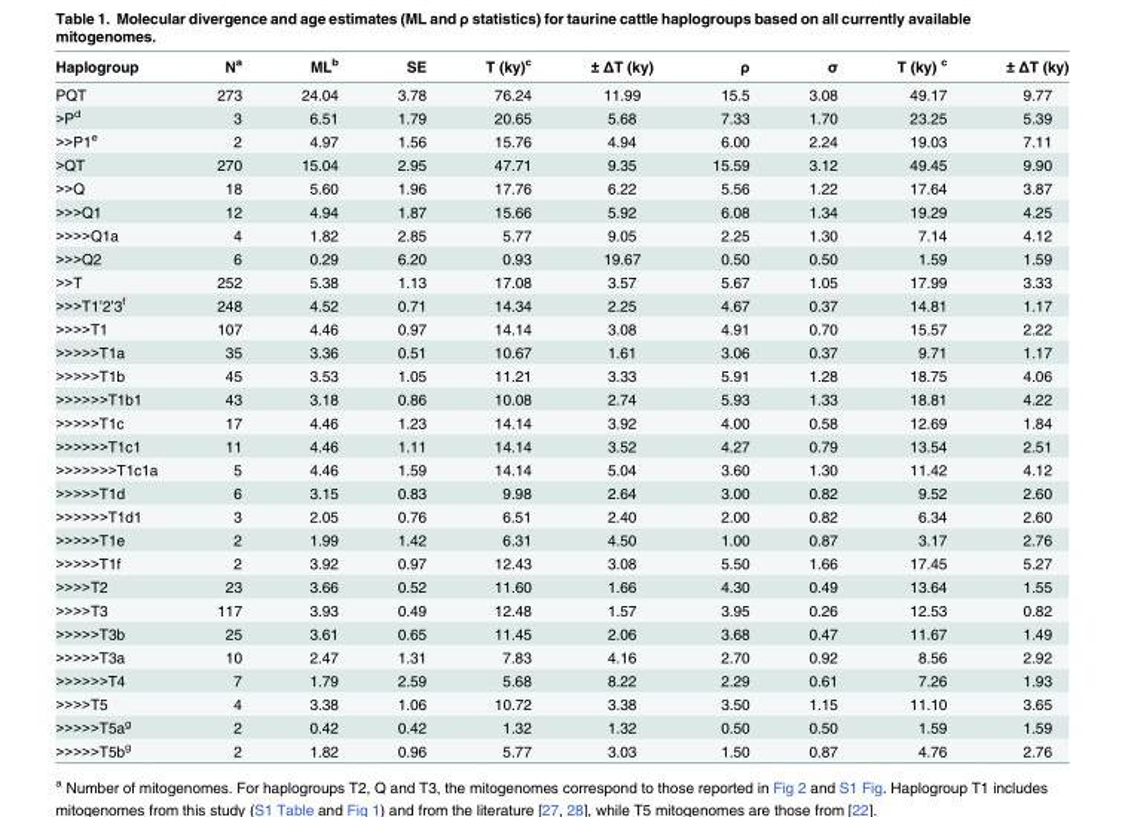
<table><thead><tr><td>Haplogroup</td><td>N<sup>a</sup></td><td>ML<sup>b</sup></td><td>SE</td><td>T (ky)<sup>c</sup></td><td>± ΔT (ky)</td><td>ρ</td><td>σ</td><td>T (ky) <sup>c</sup></td><td>± ΔT (ky)</td></tr></thead><tbody><tr><td>PQT</td><td>273</td><td>24.04</td><td>3.78</td><td>76.24</td><td>11.99</td><td>15.5</td><td>3.08</td><td>49.17</td><td>9.77</td></tr><tr><td>&gt;P<sup>d</sup></td><td>3</td><td>6.51</td><td>1.79</td><td>20.65</td><td>5.68</td><td>7.33</td><td>1.70</td><td>23.25</td><td>5.39</td></tr><tr><td>&gt;&gt;P1<sup>e</sup></td><td>2</td><td>4.97</td><td>1.56</td><td>15.76</td><td>4.94</td><td>6.00</td><td>2.24</td><td>19.03</td><td>7.11</td></tr><tr><td>&gt;QT</td><td>270</td><td>15.04</td><td>2.95</td><td>47.71</td><td>9.35</td><td>15.59</td><td>3.12</td><td>49.45</td><td>9.90</td></tr><tr><td>&gt;&gt;Q</td><td>18</td><td>5.60</td><td>1.96</td><td>17.76</td><td>6.22</td><td>5.56</td><td>1.22</td><td>17.64</td><td>3.87</td></tr><tr><td>&gt;&gt;&gt;Q1</td><td>12</td><td>4.94</td><td>1.87</td><td>15.66</td><td>5.92</td><td>6.08</td><td>1.34</td><td>19.29</td><td>4.25</td></tr><tr><td>&gt;&gt;&gt;&gt;Q1a</td><td>4</td><td>1.82</td><td>2.85</td><td>5.77</td><td>9.05</td><td>2.25</td><td>1.30</td><td>7.14</td><td>4.12</td></tr><tr><td>&gt;&gt;&gt;Q2</td><td>6</td><td>0.29</td><td>6.20</td><td>0.93</td><td>19.67</td><td>0.50</td><td>0.50</td><td>1.59</td><td>1.59</td></tr><tr><td>&gt;&gt;T</td><td>252</td><td>5.38</td><td>1.13</td><td>17.08</td><td>3.57</td><td>5.67</td><td>1.05</td><td>17.99</td><td>3.33</td></tr><tr><td>&gt;&gt;&gt;T1’2’3<sup>f</sup></td><td>248</td><td>4.52</td><td>0.71</td><td>14.34</td><td>2.25</td><td>4.67</td><td>0.37</td><td>14.81</td><td>1.17</td></tr><tr><td>&gt;&gt;&gt;&gt;T1</td><td>107</td><td>4.46</td><td>0.97</td><td>14.14</td><td>3.08</td><td>4.91</td><td>0.70</td><td>15.57</td><td>2.22</td></tr><tr><td>&gt;&gt;&gt;&gt;&gt;T1a</td><td>35</td><td>3.36</td><td>0.51</td><td>10.67</td><td>1.61</td><td>3.06</td><td>0.37</td><td>9.71</td><td>1.17</td></tr><tr><td>&gt;&gt;&gt;&gt;&gt;T1b</td><td>45</td><td>3.53</td><td>1.05</td><td>11.21</td><td>3.33</td><td>5.91</td><td>1.28</td><td>18.75</td><td>4.06</td></tr><tr><td>&gt;&gt;&gt;&gt;&gt;&gt;T1b1</td><td>43</td><td>3.18</td><td>0.86</td><td>10.08</td><td>2.74</td><td>5.93</td><td>1.33</td><td>18.81</td><td>4.22</td></tr><tr><td>&gt;&gt;&gt;&gt;&gt;T1c</td><td>17</td><td>4.46</td><td>1.23</td><td>14.14</td><td>3.92</td><td>4.00</td><td>0.58</td><td>12.69</td><td>1.84</td></tr><tr><td>&gt;&gt;&gt;&gt;&gt;&gt;T1c1</td><td>11</td><td>4.46</td><td>1.11</td><td>14.14</td><td>3.52</td><td>4.27</td><td>0.79</td><td>13.54</td><td>2.51</td></tr><tr><td>&gt;&gt;&gt;&gt;&gt;&gt;&gt;T1c1a</td><td>5</td><td>4.46</td><td>1.59</td><td>14.14</td><td>5.04</td><td>3.60</td><td>1.30</td><td>11.42</td><td>4.12</td></tr><tr><td>&gt;&gt;&gt;&gt;&gt;T1d</td><td>6</td><td>3.15</td><td>0.83</td><td>9.98</td><td>2.64</td><td>3.00</td><td>0.82</td><td>9.52</td><td>2.60</td></tr><tr><td>&gt;&gt;&gt;&gt;&gt;&gt;T1d1</td><td>3</td><td>2.05</td><td>0.76</td><td>6.51</td><td>2.40</td><td>2.00</td><td>0.82</td><td>6.34</td><td>2.60</td></tr><tr><td>&gt;&gt;&gt;&gt;&gt;T1e</td><td>2</td><td>1.99</td><td>1.42</td><td>6.31</td><td>4.50</td><td>1.00</td><td>0.87</td><td>3.17</td><td>2.76</td></tr><tr><td>&gt;&gt;&gt;&gt;&gt;T1f</td><td>2</td><td>3.92</td><td>0.97</td><td>12.43</td><td>3.08</td><td>5.50</td><td>1.66</td><td>17.45</td><td>5.27</td></tr><tr><td>&gt;&gt;&gt;&gt;T2</td><td>23</td><td>3.66</td><td>0.52</td><td>11.60</td><td>1.66</td><td>4.30</td><td>0.49</td><td>13.64</td><td>1.55</td></tr><tr><td>&gt;&gt;&gt;&gt;T3</td><td>117</td><td>3.93</td><td>0.49</td><td>12.48</td><td>1.57</td><td>3.95</td><td>0.26</td><td>12.53</td><td>0.82</td></tr><tr><td>&gt;&gt;&gt;&gt;&gt;T3b</td><td>25</td><td>3.61</td><td>0.65</td><td>11.45</td><td>2.06</td><td>3.68</td><td>0.47</td><td>11.67</td><td>1.49</td></tr><tr><td>&gt;&gt;&gt;&gt;&gt;T3a</td><td>10</td><td>2.47</td><td>1.31</td><td>7.83</td><td>4.16</td><td>2.70</td><td>0.92</td><td>8.56</td><td>2.92</td></tr><tr><td>&gt;&gt;&gt;&gt;&gt;&gt;T4</td><td>7</td><td>1.79</td><td>2.59</td><td>5.68</td><td>8.22</td><td>2.29</td><td>0.61</td><td>7.26</td><td>1.93</td></tr><tr><td>&gt;&gt;&gt;&gt;T5</td><td>4</td><td>3.38</td><td>1.06</td><td>10.72</td><td>3.38</td><td>3.50</td><td>1.15</td><td>11.10</td><td>3.65</td></tr><tr><td>&gt;&gt;&gt;&gt;&gt;T5a<sup>g</sup></td><td>2</td><td>0.42</td><td>0.42</td><td>1.32</td><td>1.32</td><td>0.50</td><td>0.50</td><td>1.59</td><td>1.59</td></tr><tr><td>&gt;&gt;&gt;&gt;&gt;T5b<sup>g</sup></td><td>2</td><td>1.82</td><td>0.96</td><td>5.77</td><td>3.03</td><td>1.50</td><td>0.87</td><td>4.76</td><td>2.76</td></tr></tbody></table>